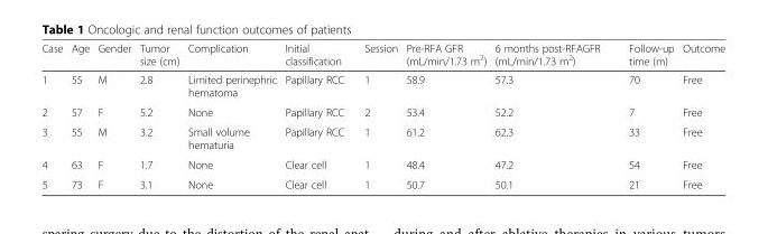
<table><thead><tr><td>Case</td><td>Age</td><td>Gender</td><td>Tumor size (cm)</td><td>Complication</td><td>Initial classification</td><td>Session</td><td>Pre-RFA GFR (mL/min/1.73 m<sup>2</sup>)</td><td>6 months post-RFAGFR (mL/min/1.73 m<sup>2</sup>)</td><td>Follow-up time (m)</td><td>Outcome</td></tr></thead><tbody><tr><td>1</td><td>55</td><td>M</td><td>2.8</td><td>Limited perinephric hematoma</td><td>Papillary RCC</td><td>1</td><td>58.9</td><td>57.3</td><td>70</td><td>Free</td></tr><tr><td>2</td><td>57</td><td>F</td><td>5.2</td><td>None</td><td>Papillary RCC</td><td>2</td><td>53.4</td><td>52.2</td><td>7</td><td>Free</td></tr><tr><td>3</td><td>55</td><td>M</td><td>3.2</td><td>Small volume hematuria</td><td>Papillary RCC</td><td>1</td><td>61.2</td><td>62.3</td><td>33</td><td>Free</td></tr><tr><td>4</td><td>63</td><td>F</td><td>1.7</td><td>None</td><td>Clear cell</td><td>1</td><td>48.4</td><td>47.2</td><td>54</td><td>Free</td></tr><tr><td>5</td><td>73</td><td>F</td><td>3.1</td><td>None</td><td>Clear cell</td><td>1</td><td>50.7</td><td>50.1</td><td>21</td><td>Free</td></tr></tbody></table>